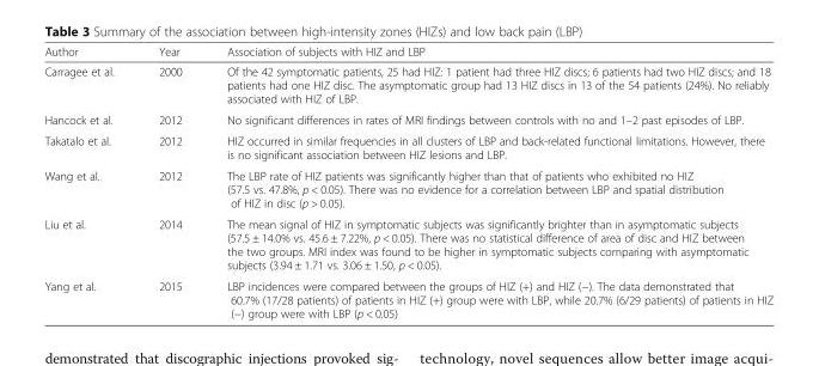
<table><thead><tr><td>Author</td><td>Year</td><td>Association of subjects with HIZ and LBP</td></tr></thead><tbody><tr><td>Carragee et al.</td><td>2000</td><td>Of the 42 symptomatic patients, 25 had HIZ: 1 patient had three HIZ discs; 6 patients had two HIZ discs; and 18 patients had one HIZ disc. The asymptomatic group had 13 HIZ discs in 13 of the 54 patients (24%). No reliably associated with HIZ of LBP.</td></tr><tr><td>Hancock et al.</td><td>2012</td><td>No significant differences in rates of MRI findings between controls with no and 1–2 past episodes of LBP.</td></tr><tr><td>Takatalo et al.</td><td>2012</td><td>HIZ occurred in similar frequencies in all clusters of LBP and back-related functional limitations. However, there is no significant association between HIZ lesions and LBP.</td></tr><tr><td>Wang et al.</td><td>2012</td><td>The LBP rate of HIZ patients was significantly higher than that of patients who exhibited no HIZ (57.5 vs. 47.8%, p &lt; 0.05). There was no evidence for a correlation between LBP and spatial distribution of HIZ in disc (p &gt; 0.05).</td></tr><tr><td>Liu et al.</td><td>2014</td><td>The mean signal of HIZ in symptomatic subjects was significantly brighter than in asymptomatic subjects (57.5 ± 14.0% vs. 45.6 ± 7.22%, p &lt; 0.05). There was no statistical difference of area of disc and HIZ between the two groups. MRI index was found to be higher in symptomatic subjects comparing with asymptomatic subjects (3.94 ± 1.71 vs. 3.06 ± 1.50, p &lt; 0.05).</td></tr><tr><td>Yang et al.</td><td>2015</td><td>LBP incidences were compared between the groups of HIZ (+) and HIZ (−). The data demonstrated that 60.7% (17/28 patients) of patients in HIZ (+) group were with LBP, while 20.7% (6/29 patients) of patients in HIZ (−) group were with LBP (p &lt; 0.05)</td></tr></tbody></table>